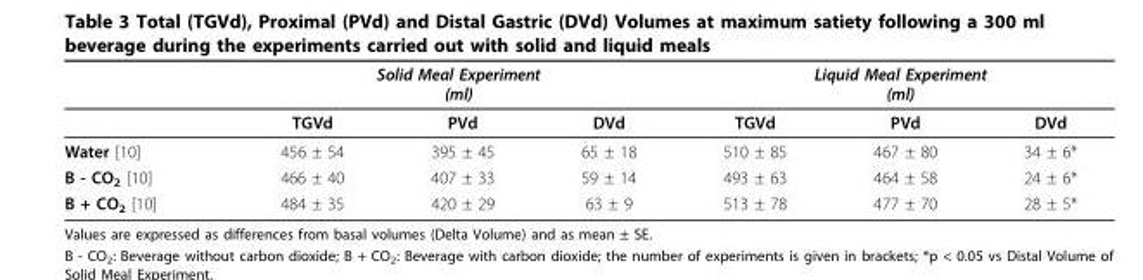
<table><thead><tr><td rowspan="2"></td><td colspan="3">Solid Meal Experiment (ml)</td><td colspan="3">Liquid Meal Experiment (ml)</td></tr><tr><td>TGVd</td><td>PVd</td><td>DVd</td><td>TGVd</td><td>PVd</td><td>DVd</td></tr></thead><tbody><tr><td>Water [10]</td><td>456 ± 54</td><td>395 ± 45</td><td>65 ± 18</td><td>510 ± 85</td><td>467 ± 80</td><td>34 ± 6*</td></tr><tr><td>B - CO<sub>2</sub> [10]</td><td>466 ± 40</td><td>407 ± 33</td><td>59 ± 14</td><td>493 ± 63</td><td>464 ± 58</td><td>24 ± 6*</td></tr><tr><td>B + CO<sub>2</sub> [10]</td><td>484 ± 35</td><td>420 ± 29</td><td>63 ± 9</td><td>513 ± 78</td><td>477 ± 70</td><td>28 ± 5*</td></tr></tbody></table>